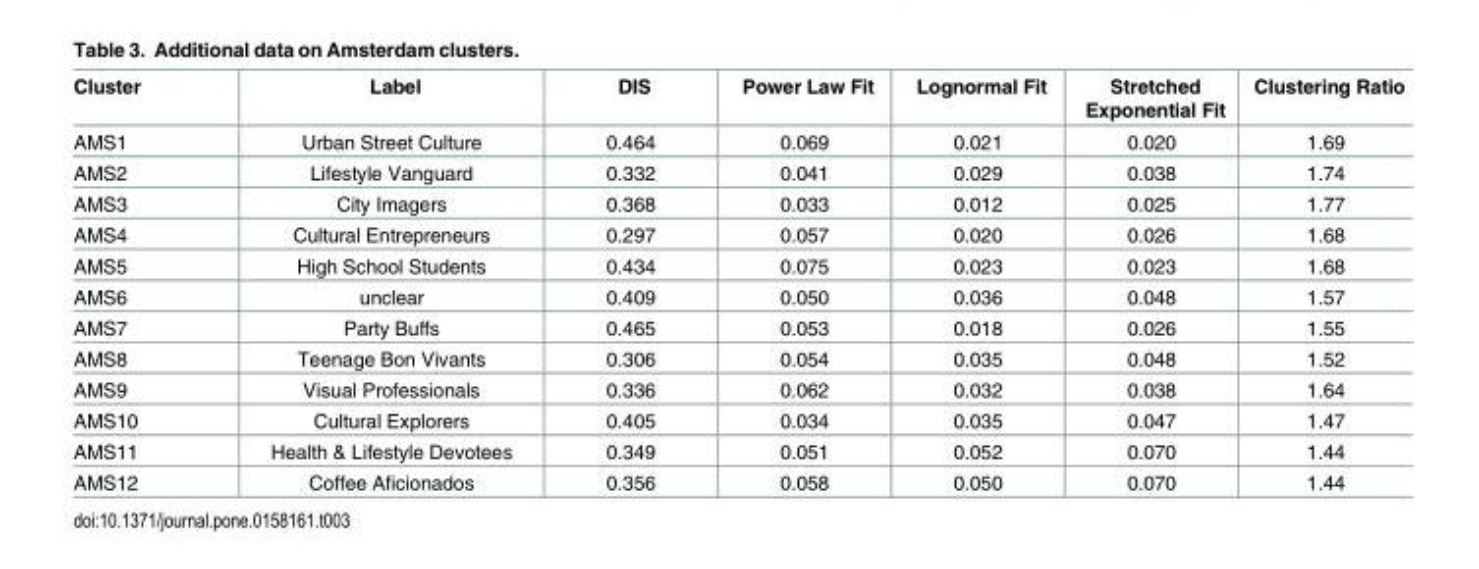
<table><thead><tr><td>Cluster</td><td>Label</td><td>DIS</td><td>Power Law Fit</td><td>Lognormal Fit</td><td>Stretched Exponential Fit</td><td>Clustering Ratio</td></tr></thead><tbody><tr><td>AMS1</td><td>Urban Street Culture</td><td>0.464</td><td>0.069</td><td>0.021</td><td>0.020</td><td>1.69</td></tr><tr><td>AMS2</td><td>Lifestyle Vanguard</td><td>0.332</td><td>0.041</td><td>0.029</td><td>0.038</td><td>1.74</td></tr><tr><td>AMS3</td><td>City Imagers</td><td>0.368</td><td>0.033</td><td>0.012</td><td>0.025</td><td>1.77</td></tr><tr><td>AMS4</td><td>Cultural Entrepreneurs</td><td>0.297</td><td>0.057</td><td>0.020</td><td>0.026</td><td>1.68</td></tr><tr><td>AMS5</td><td>High School Students</td><td>0.434</td><td>0.075</td><td>0.023</td><td>0.023</td><td>1.68</td></tr><tr><td>AMS6</td><td>unclear</td><td>0.409</td><td>0.050</td><td>0.036</td><td>0.048</td><td>1.57</td></tr><tr><td>AMS7</td><td>Party Buffs</td><td>0.465</td><td>0.053</td><td>0.018</td><td>0.026</td><td>1.55</td></tr><tr><td>AMS8</td><td>Teenage Bon Vivants</td><td>0.306</td><td>0.054</td><td>0.035</td><td>0.048</td><td>1.52</td></tr><tr><td>AMS9</td><td>Visual Professionals</td><td>0.336</td><td>0.062</td><td>0.032</td><td>0.038</td><td>1.64</td></tr><tr><td>AMS10</td><td>Cultural Explorers</td><td>0.405</td><td>0.034</td><td>0.035</td><td>0.047</td><td>1.47</td></tr><tr><td>AMS11</td><td>Health &amp; Lifestyle Devotees</td><td>0.349</td><td>0.051</td><td>0.052</td><td>0.070</td><td>1.44</td></tr><tr><td>AMS12</td><td>Coffee Aficionados</td><td>0.356</td><td>0.058</td><td>0.050</td><td>0.070</td><td>1.44</td></tr></tbody></table>